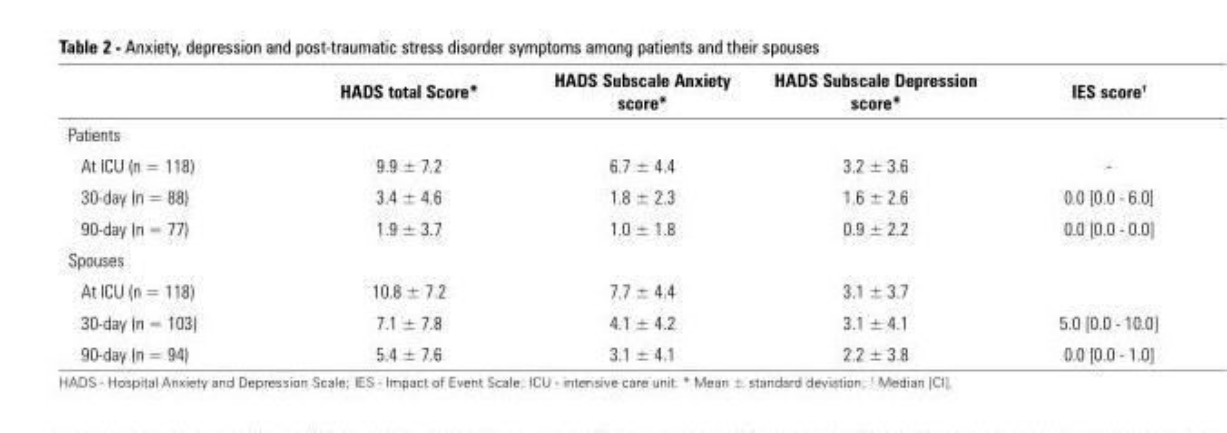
<table><thead><tr><td></td><td>HADS total Score*</td><td>HADS Subscale Anxiety score*</td><td>HADS Subscale Depression score*</td><td>IES score†</td></tr></thead><tbody><tr><td colspan="5">Patients</td></tr><tr><td>At ICU (n = 118)</td><td>9.9 ± 7.2</td><td>6.7 ± 4.4</td><td>3.2 ± 3.6</td><td>-</td></tr><tr><td>30-day (n = 88)</td><td>3.4 ± 4.6</td><td>1.8 ± 2.3</td><td>1.6 ± 2.6</td><td>0.0 [0.0 - 6.0]</td></tr><tr><td>90-day (n = 77)</td><td>1.9 ± 3.7</td><td>1.0 ± 1.8</td><td>0.9 ± 2.2</td><td>0.0 [0.0 - 0.0]</td></tr><tr><td colspan="5">Spouses</td></tr><tr><td>At ICU (n = 118)</td><td>10.8 ± 7.2</td><td>7.7 ± 4.4</td><td>3.1 ± 3.7</td><td></td></tr><tr><td>30-day (n = 103)</td><td>7.1 ± 7.8</td><td>4.1 ± 4.2</td><td>3.1 ± 4.1</td><td>5.0 [0.0 - 10.0]</td></tr><tr><td>90-day (n = 94)</td><td>5.4 ± 7.6</td><td>3.1 ± 4.1</td><td>2.2 ± 3.8</td><td>0.0 [0.0 - 1.0]</td></tr></tbody></table>